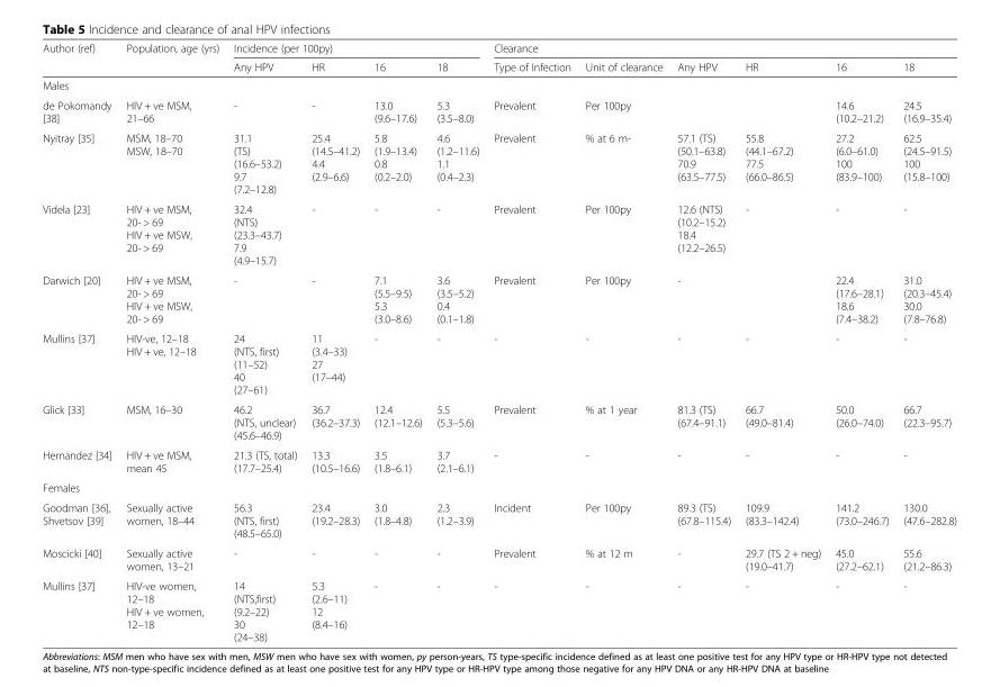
<table><thead><tr><td rowspan="2">Author (ref)</td><td rowspan="2">Population, age (yrs)</td><td colspan="4">Incidence (per 100py)</td><td colspan="6">Clearance</td></tr><tr><td>Any HPV</td><td>HR</td><td>16</td><td>18</td><td>Type of Infection</td><td>Unit of clearance</td><td>Any HPV</td><td>HR</td><td>16</td><td>18</td></tr></thead><tbody><tr><td colspan="12">Males</td></tr><tr><td>de Pokomandy [38]</td><td>HIV + ve MSM, 21–66</td><td>-</td><td>-</td><td>13.0 (9.6–17.6)</td><td>5.3 (3.5–8.0)</td><td>Prevalent</td><td>Per 100py</td><td></td><td></td><td>14.6 (10.2–21.2)</td><td>24.5 (16.9–35.4)</td></tr><tr><td>Nyitray [35]</td><td>MSM, 18–70 MSW, 18–70</td><td>31.1 (TS) (16.6–53.2) 9.7 (7.2–12.8)</td><td>25.4 (14.5–41.2) 4.4 (2.9–6.6)</td><td>5.8 (1.9–13.4) 0.8 (0.2–2.0)</td><td>4.6 (1.2–11.6) 1.1 (0.4–2.3)</td><td>Prevalent</td><td>% at 6 m-</td><td>57.1 (TS) (50.1–63.8) 70.9 (63.5–77.5)</td><td>55.8 (44.1–67.2) 77.5 (66.0–86.5)</td><td>27.2 (6.0–61.0) 100 (83.9–100)</td><td>62.5 (24.5–91.5) 100 (15.8–100)</td></tr><tr><td>Videla [23]</td><td>HIV + ve MSM, 20- &gt; 69 HIV + ve MSW, 20- &gt; 69</td><td>32.4 (NTS) (23.3–43.7) 7.9 (4.9–15.7)</td><td>-</td><td>-</td><td>-</td><td>Prevalent</td><td>Per 100py</td><td>12.6 (NTS) (10.2–15.2) 18.4 (12.2–26.5)</td><td>-</td><td>-</td><td>-</td></tr><tr><td>Darwich [20]</td><td>HIV + ve MSM, 20- &gt; 69 HIV + ve MSW, 20- &gt; 69</td><td>-</td><td>-</td><td>7.1 (5.5–9.5) 5.3 (3.0–8.6)</td><td>3.6 (3.5–5.2) 0.4 (0.1–1.8)</td><td>Prevalent</td><td>Per 100py</td><td>-</td><td></td><td>22.4 (17.6–28.1) 18.6 (7.4–38.2)</td><td>31.0 (20.3–45.4) 30.0 (7.8–76.8)</td></tr><tr><td>Mullins [37]</td><td>HIV-ve, 12–18 HIV + ve, 12–18</td><td>24 (NTS, first) (11–52) 40 (27–61)</td><td>11 (3.4–33) 27 (17–44)</td><td>-</td><td>-</td><td>-</td><td>-</td><td>-</td><td>-</td><td>-</td><td>-</td></tr><tr><td>Glick [33]</td><td>MSM, 16–30</td><td>46.2 (NTS, unclear) (45.6–46.9)</td><td>36.7 (36.2–37.3)</td><td>12.4 (12.1–12.6)</td><td>5.5 (5.3–5.6)</td><td>Prevalent</td><td>% at 1 year</td><td>81.3 (TS) (67.4–91.1)</td><td>66.7 (49.0–81.4)</td><td>50.0 (26.0–74.0)</td><td>66.7 (22.3–95.7)</td></tr><tr><td>Hernandez [34]</td><td>HIV + ve MSM, mean 45</td><td>21.3 (TS, total) (17.7–25.4)</td><td>13.3 (10.5–16.6)</td><td>3.5 (1.8–6.1)</td><td>3.7 (2.1–6.1)</td><td>-</td><td>-</td><td>-</td><td>-</td><td>-</td><td>-</td></tr><tr><td colspan="12">Females</td></tr><tr><td>Goodman [36], Shvetsov [39]</td><td>Sexually active women, 18–44</td><td>56.3 (NTS, first) (48.5–65.0)</td><td>23.4 (19.2–28.3)</td><td>3.0 (1.8–4.8)</td><td>2.3 (1.2–3.9)</td><td>Incident</td><td>Per 100py</td><td>89.3 (TS) (67.8–115.4)</td><td>109.9 (83.3–142.4)</td><td>141.2 (73.0–246.7)</td><td>130.0 (47.6–282.8)</td></tr><tr><td>Moscicki [40]</td><td>Sexually active women, 13–21</td><td>-</td><td>-</td><td>-</td><td>-</td><td>Prevalent</td><td>% at 12 m</td><td>-</td><td>29.7 (TS 2 + neg) (19.0–41.7)</td><td>45.0 (27.2–62.1)</td><td>55.6 (21.2–86.3)</td></tr><tr><td>Mullins [37]</td><td>HIV-ve women, 12–18 HIV + ve women, 12–18</td><td>14 (NTS,first) (9.2–22) 30 (24–38)</td><td>5.3 (2.6–11) 12 (8.4–16)</td><td>-</td><td>-</td><td>-</td><td>-</td><td>-</td><td>-</td><td>-</td><td>-</td></tr></tbody></table>